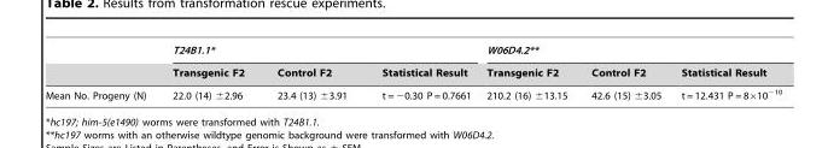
<table><thead><tr><td rowspan="2"></td><td colspan="3">T24B1.1*</td><td colspan="3">W06D4.2**</td></tr><tr><td>Transgenic F2</td><td>Control F2</td><td>Statistical Result</td><td>Transgenic F2</td><td>Control F2</td><td>Statistical Result</td></tr></thead><tbody><tr><td>Mean No. Progeny (N)</td><td>22.0 (14) ±2.96</td><td>23.4 (13) ±3.91</td><td>t = −0.30 P = 0.7661</td><td>210.2 (16) ±13.15</td><td>42.6 (15) ±3.05</td><td>t = 12.431 P = 8×10<sup>−10</sup></td></tr></tbody></table>